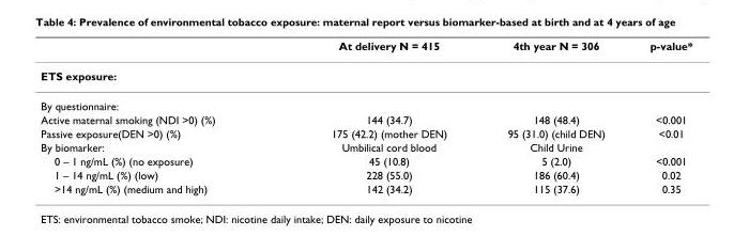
<table><thead><tr><td></td><td>At delivery N = 415</td><td>4th year N = 306</td><td>p-value*</td></tr></thead><tbody><tr><td colspan="4">ETS exposure:</td></tr><tr><td colspan="4">By questionnaire:</td></tr><tr><td>Active maternal smoking (NDI &gt;0) (%)</td><td>144 (34.7)</td><td>148 (48.4)</td><td>&lt;0.001</td></tr><tr><td>Passive exposure(DEN &gt;0) (%)</td><td>175 (42.2) (mother DEN)</td><td>95 (31.0) (child DEN)</td><td>&lt;0.01</td></tr><tr><td>By biomarker:</td><td>Umbilical cord blood</td><td>Child Urine</td><td></td></tr><tr><td>0 – 1 ng/mL (%) (no exposure)</td><td>45 (10.8)</td><td>5 (2.0)</td><td>&lt;0.001</td></tr><tr><td>1 – 14 ng/mL (%) (low)</td><td>228 (55.0)</td><td>186 (60.4)</td><td>0.02</td></tr><tr><td>&gt;14 ng/mL (%) (medium and high)</td><td>142 (34.2)</td><td>115 (37.6)</td><td>0.35</td></tr></tbody></table>